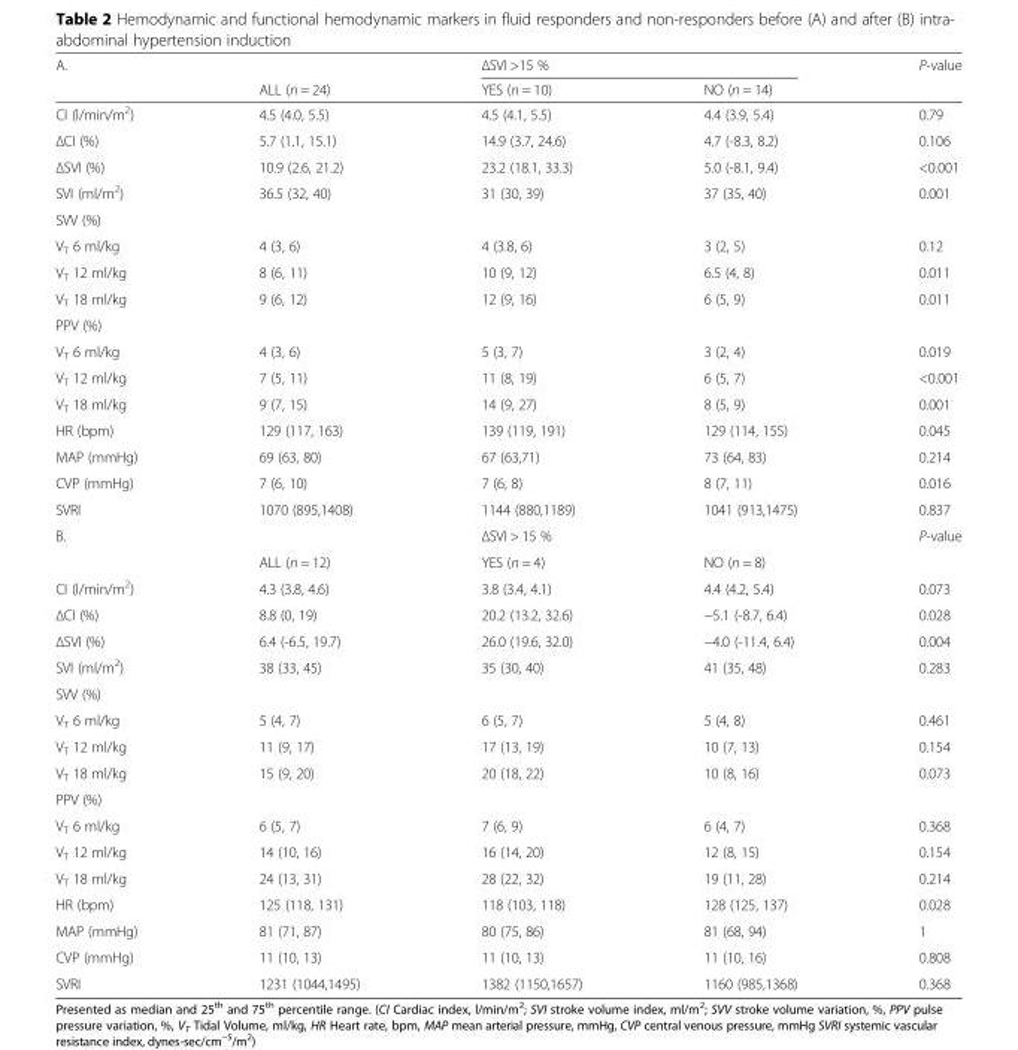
<table><thead><tr><td rowspan="2">A.</td><td rowspan="2">ALL (n = 24)</td><td colspan="2">ΔSVI &gt;15 %</td><td rowspan="2">P-value</td></tr><tr><td>YES (n = 10)</td><td>NO (n = 14)</td></tr></thead><tbody><tr><td>CI (l/min/m<sup>2</sup>)</td><td>4.5 (4.0, 5.5)</td><td>4.5 (4.1, 5.5)</td><td>4.4 (3.9, 5.4)</td><td>0.79</td></tr><tr><td>ΔCI (%)</td><td>5.7 (1.1, 15.1)</td><td>14.9 (3.7, 24.6)</td><td>4.7 (-8.3, 8.2)</td><td>0.106</td></tr><tr><td>ΔSVI (%)</td><td>10.9 (2.6, 21.2)</td><td>23.2 (18.1, 33.3)</td><td>5.0 (-8.1, 9.4)</td><td>&lt;0.001</td></tr><tr><td>SVI (ml/m<sup>2</sup>)</td><td>36.5 (32, 40)</td><td>31 (30, 39)</td><td>37 (35, 40)</td><td>0.001</td></tr><tr><td colspan="5">SVV (%)</td></tr><tr><td>V<sub>T</sub> 6 ml/kg</td><td>4 (3, 6)</td><td>4 (3.8, 6)</td><td>3 (2, 5)</td><td>0.12</td></tr><tr><td>V<sub>T</sub> 12 ml/kg</td><td>8 (6, 11)</td><td>10 (9, 12)</td><td>6.5 (4, 8)</td><td>0.011</td></tr><tr><td>V<sub>T</sub> 18 ml/kg</td><td>9 (6, 12)</td><td>12 (9, 16)</td><td>6 (5, 9)</td><td>0.011</td></tr><tr><td colspan="5">PPV (%)</td></tr><tr><td>V<sub>T</sub> 6 ml/kg</td><td>4 (3, 6)</td><td>5 (3, 7)</td><td>3 (2, 4)</td><td>0.019</td></tr><tr><td>V<sub>T</sub> 12 ml/kg</td><td>7 (5, 11)</td><td>11 (8, 19)</td><td>6 (5, 7)</td><td>&lt;0.001</td></tr><tr><td>V<sub>T</sub> 18 ml/kg</td><td>9 (7, 15)</td><td>14 (9, 27)</td><td>8 (5, 9)</td><td>0.001</td></tr><tr><td>HR (bpm)</td><td>129 (117, 163)</td><td>139 (119, 191)</td><td>129 (114, 155)</td><td>0.045</td></tr><tr><td>MAP (mmHg)</td><td>69 (63, 80)</td><td>67 (63,71)</td><td>73 (64, 83)</td><td>0.214</td></tr><tr><td>CVP (mmHg)</td><td>7 (6, 10)</td><td>7 (6, 8)</td><td>8 (7, 11)</td><td>0.016</td></tr><tr><td>SVRI</td><td>1070 (895,1408)</td><td>1144 (880,1189)</td><td>1041 (913,1475)</td><td>0.837</td></tr><tr><td rowspan="2">B.</td><td></td><td colspan="2">ΔSVI &gt; 15 %</td><td>P-value</td></tr><tr><td>ALL (n = 12)</td><td>YES (n = 4)</td><td>NO (n = 8)</td><td></td></tr><tr><td>CI (l/min/m<sup>2</sup>)</td><td>4.3 (3.8, 4.6)</td><td>3.8 (3.4, 4.1)</td><td>4.4 (4.2, 5.4)</td><td>0.073</td></tr><tr><td>ΔCI (%)</td><td>8.8 (0, 19)</td><td>20.2 (13.2, 32.6)</td><td>−5.1 (-8.7, 6.4)</td><td>0.028</td></tr><tr><td>ΔSVI (%)</td><td>6.4 (-6.5, 19.7)</td><td>26.0 (19.6, 32.0)</td><td>−4.0 (-11.4, 6.4)</td><td>0.004</td></tr><tr><td>SVI (ml/m<sup>2</sup>)</td><td>38 (33, 45)</td><td>35 (30, 40)</td><td>41 (35, 48)</td><td>0.283</td></tr><tr><td colspan="5">SVV (%)</td></tr><tr><td>V<sub>T</sub> 6 ml/kg</td><td>5 (4, 7)</td><td>6 (5, 7)</td><td>5 (4, 8)</td><td>0.461</td></tr><tr><td>V<sub>T</sub> 12 ml/kg</td><td>11 (9, 17)</td><td>17 (13, 19)</td><td>10 (7, 13)</td><td>0.154</td></tr><tr><td>V<sub>T</sub> 18 ml/kg</td><td>15 (9, 20)</td><td>20 (18, 22)</td><td>10 (8, 16)</td><td>0.073</td></tr><tr><td colspan="5">PPV (%)</td></tr><tr><td>V<sub>T</sub> 6 ml/kg</td><td>6 (5, 7)</td><td>7 (6, 9)</td><td>6 (4, 7)</td><td>0.368</td></tr><tr><td>V<sub>T</sub> 12 ml/kg</td><td>14 (10, 16)</td><td>16 (14, 20)</td><td>12 (8, 15)</td><td>0.154</td></tr><tr><td>V<sub>T</sub> 18 ml/kg</td><td>24 (13, 31)</td><td>28 (22, 32)</td><td>19 (11, 28)</td><td>0.214</td></tr><tr><td>HR (bpm)</td><td>125 (118, 131)</td><td>118 (103, 118)</td><td>128 (125, 137)</td><td>0.028</td></tr><tr><td>MAP (mmHg)</td><td>81 (71, 87)</td><td>80 (75, 86)</td><td>81 (68, 94)</td><td>1</td></tr><tr><td>CVP (mmHg)</td><td>11 (10, 13)</td><td>11 (10, 13)</td><td>11 (10, 16)</td><td>0.808</td></tr><tr><td>SVRI</td><td>1231 (1044,1495)</td><td>1382 (1150,1657)</td><td>1160 (985,1368)</td><td>0.368</td></tr></tbody></table>